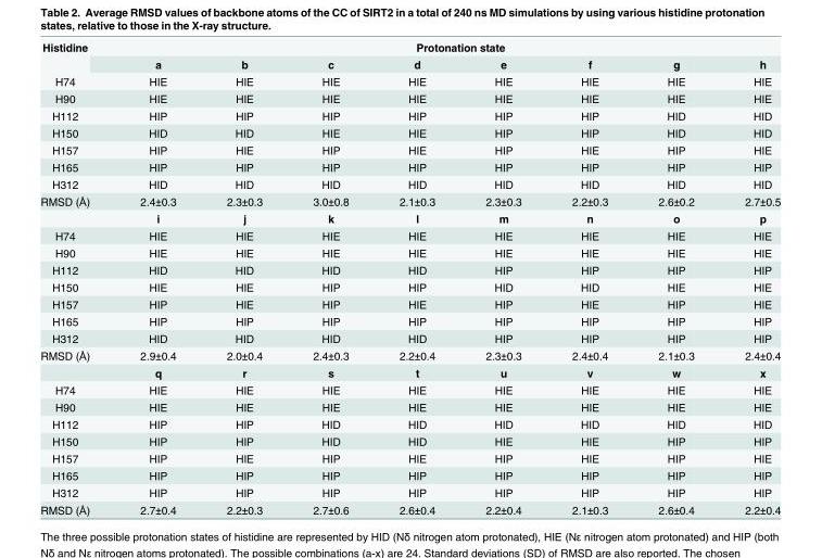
<table><tbody><tr><td rowspan="2">Histidine</td><td colspan="8">Protonation state</td></tr><tr><td>a</td><td>b</td><td>c</td><td>d</td><td>e</td><td>f</td><td>g</td><td>h</td></tr><tr><td>H74</td><td>HIE</td><td>HIE</td><td>HIE</td><td>HIE</td><td>HIE</td><td>HIE</td><td>HIE</td><td>HIE</td></tr><tr><td>H90</td><td>HIE</td><td>HIE</td><td>HIE</td><td>HIE</td><td>HIE</td><td>HIE</td><td>HIE</td><td>HIE</td></tr><tr><td>H112</td><td>HIP</td><td>HIP</td><td>HIP</td><td>HIP</td><td>HIP</td><td>HIP</td><td>HID</td><td>HID</td></tr><tr><td>H150</td><td>HID</td><td>HID</td><td>HIE</td><td>HIE</td><td>HIP</td><td>HIP</td><td>HID</td><td>HID</td></tr><tr><td>H157</td><td>HIP</td><td>HIE</td><td>HIP</td><td>HIE</td><td>HIP</td><td>HIE</td><td>HIP</td><td>HIE</td></tr><tr><td>H165</td><td>HIP</td><td>HIP</td><td>HIP</td><td>HIP</td><td>HIP</td><td>HIP</td><td>HIP</td><td>HIP</td></tr><tr><td>H312</td><td>HID</td><td>HID</td><td>HID</td><td>HID</td><td>HID</td><td>HID</td><td>HID</td><td>HID</td></tr><tr><td rowspan="2">RMSD (Å)</td><td>2.4±0.3</td><td>2.3±0.3</td><td>3.0±0.8</td><td>2.1±0.3</td><td>2.3±0.3</td><td>2.2±0.3</td><td>2.6±0.2</td><td>2.7±0.5</td></tr><tr><td>i</td><td>j</td><td>k</td><td>l</td><td>m</td><td>n</td><td>o</td><td>p</td></tr><tr><td>H74</td><td>HIE</td><td>HIE</td><td>HIE</td><td>HIE</td><td>HIE</td><td>HIE</td><td>HIE</td><td>HIE</td></tr><tr><td>H90</td><td>HIE</td><td>HIE</td><td>HIE</td><td>HIE</td><td>HIE</td><td>HIE</td><td>HIE</td><td>HIE</td></tr><tr><td>H112</td><td>HID</td><td>HID</td><td>HID</td><td>HID</td><td>HIP</td><td>HIP</td><td>HIP</td><td>HIP</td></tr><tr><td>H150</td><td>HIE</td><td>HIE</td><td>HIP</td><td>HIP</td><td>HID</td><td>HID</td><td>HIE</td><td>HIE</td></tr><tr><td>H157</td><td>HIP</td><td>HIE</td><td>HIP</td><td>HIE</td><td>HIP</td><td>HIE</td><td>HIP</td><td>HIE</td></tr><tr><td>H165</td><td>HIP</td><td>HIP</td><td>HIP</td><td>HIP</td><td>HIP</td><td>HIP</td><td>HIP</td><td>HIP</td></tr><tr><td>H312</td><td>HID</td><td>HID</td><td>HID</td><td>HID</td><td>HIP</td><td>HIP</td><td>HIP</td><td>HIP</td></tr><tr><td rowspan="2">RMSD (Å)</td><td>2.9±0.4</td><td>2.0±0.4</td><td>2.4±0.3</td><td>2.2±0.4</td><td>2.3±0.3</td><td>2.4±0.4</td><td>2.1±0.3</td><td>2.4±0.4</td></tr><tr><td>q</td><td>r</td><td>s</td><td>t</td><td>u</td><td>v</td><td>w</td><td>x</td></tr><tr><td>H74</td><td>HIE</td><td>HIE</td><td>HIE</td><td>HIE</td><td>HIE</td><td>HIE</td><td>HIE</td><td>HIE</td></tr><tr><td>H90</td><td>HIE</td><td>HIE</td><td>HIE</td><td>HIE</td><td>HIE</td><td>HIE</td><td>HIE</td><td>HIE</td></tr><tr><td>H112</td><td>HIP</td><td>HIP</td><td>HID</td><td>HID</td><td>HID</td><td>HID</td><td>HID</td><td>HID</td></tr><tr><td>H150</td><td>HIP</td><td>HIP</td><td>HID</td><td>HID</td><td>HIE</td><td>HIE</td><td>HIP</td><td>HIP</td></tr><tr><td>H157</td><td>HIP</td><td>HIE</td><td>HIP</td><td>HIE</td><td>HIP</td><td>HIE</td><td>HIP</td><td>HIE</td></tr><tr><td>H165</td><td>HIP</td><td>HIP</td><td>HIP</td><td>HIP</td><td>HIP</td><td>HIP</td><td>HIP</td><td>HIP</td></tr><tr><td>H312</td><td>HIP</td><td>HIP</td><td>HIP</td><td>HIP</td><td>HIP</td><td>HIP</td><td>HIP</td><td>HIP</td></tr><tr><td>RMSD (Å)</td><td>2.7±0.4</td><td>2.2±0.3</td><td>2.7±0.6</td><td>2.6±0.4</td><td>2.2±0.4</td><td>2.1±0.3</td><td>2.6±0.4</td><td>2.2±0.4</td></tr></tbody></table>